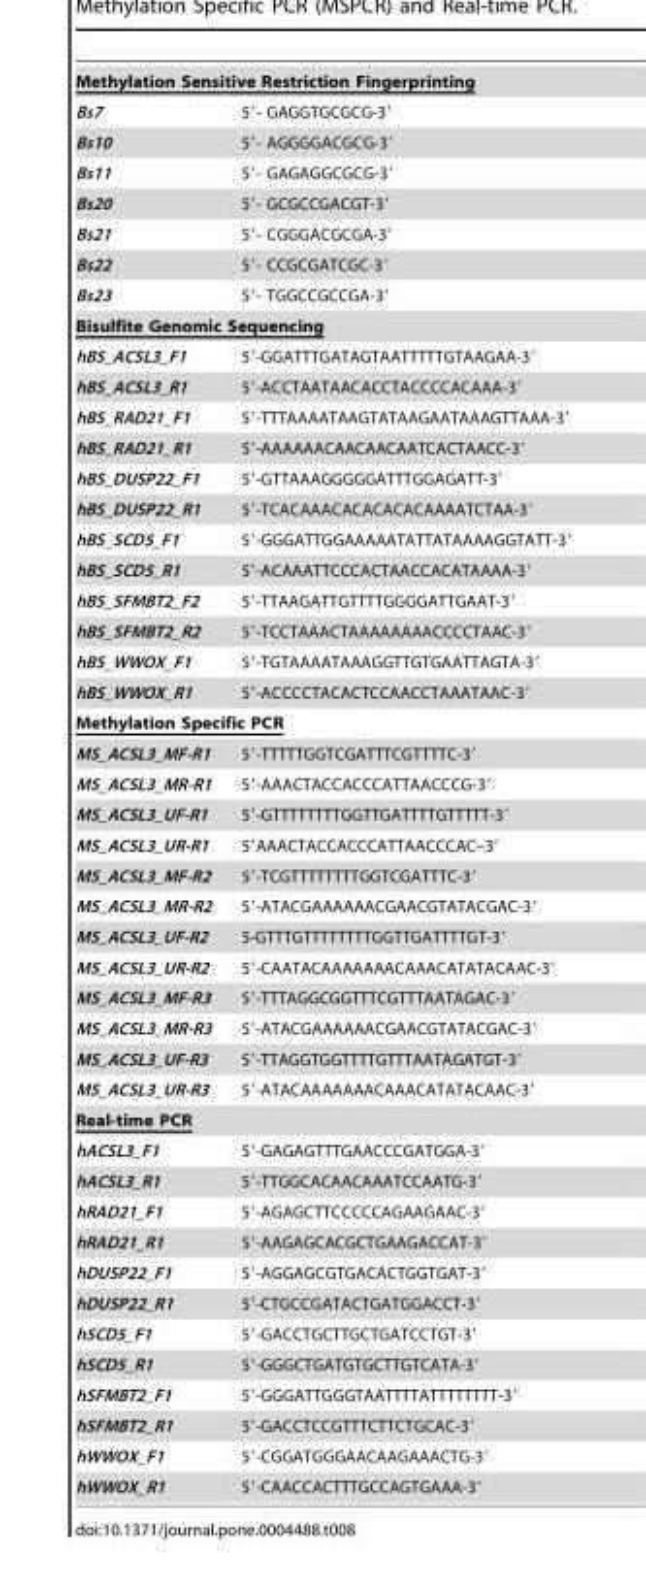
<table><tbody><tr><td colspan="2">Methylation Sensitive Restriction Fingerprinting</td></tr><tr><td>Bs7</td><td>5′- GAGGTGCGCG-3′</td></tr><tr><td>Bs10</td><td>5′- AGGGGACGCG-3′</td></tr><tr><td>Bs11</td><td>5′- GAGAGGCGCG-3′</td></tr><tr><td>Bs20</td><td>5′- GCGCCGACGT-3′</td></tr><tr><td>Bs21</td><td>5′- CGGGACGCGA-3′</td></tr><tr><td>Bs22</td><td>5′- CCGCGATCGC-3′</td></tr><tr><td>Bs23</td><td>5′- TGGCCGCCGA-3′</td></tr><tr><td colspan="2">Bisulfite Genomic Sequencing</td></tr><tr><td>hBS_ACSL3_F1</td><td>5′-GGATTTGATAGTAATTTTTGTAAGAA-3′</td></tr><tr><td>hBS_ACSL3_R1</td><td>5′-ACCTAATAACACCTACCCCACAAA-3′</td></tr><tr><td>hBS_RAD21_F1</td><td>5′-TTTAAAATAAGTATAAGAATAAAGTTAAA-3′</td></tr><tr><td>hBS_RAD21_R1</td><td>5′-AAAAAACAACAACAATCACTAACC-3′</td></tr><tr><td>hBS_DUSP22_F1</td><td>5′-GTTAAAGGGGGATTTGGAGATT-3′</td></tr><tr><td>hBS_DUSP22_R1</td><td>5′-TCACAAACACACACACAAAATCTAA-3′</td></tr><tr><td>hBS_SCD5_F1</td><td>5′-GGGATTGGAAAAATATTATAAAAGGTATT-3′</td></tr><tr><td>hBS_SCD5_R1</td><td>5′-ACAAATTCCCACTAACCACATAAAA-3′</td></tr><tr><td>hBS_SFMBT2_F2</td><td>5′-TTAAGATTGTTTTGGGGATTGAAT-3′</td></tr><tr><td>hBS_SFMBT2_R2</td><td>5′-TCCTAAACTAAAAAAAACCCCTAAC-3′</td></tr><tr><td>hBS_WWOX_F1</td><td>5′-TGTAAAATAAAGGTTGTGAATTAGTA-3′</td></tr><tr><td>hBS_WWOX_R1</td><td>5′-ACCCCTACACTCCAACCTAAATAAC-3′</td></tr><tr><td colspan="2">Methylation Specific PCR</td></tr><tr><td>MS_ACSL3_MF-R1</td><td>5′-TTTTTGGTCGATTTCGTTTTC-3′</td></tr><tr><td>MS_ACSL3_MR-R1</td><td>5′-AAACTACCACCCATTAACCCG-3′</td></tr><tr><td>MS_ACSL3_UF-R1</td><td>5′-GTTTTTTTTGGTTGATTTTGTTTTT-3′</td></tr><tr><td>MS_ACSL3_UR-R1</td><td>5′AAACTACCACCCATTAACCCAC–3′</td></tr><tr><td>MS_ACSL3_MF-R2</td><td>5′-TCGTTTTTTTTGGTCGATTTC-3′</td></tr><tr><td>MS_ACSL3_MR-R2</td><td>5′-ATACGAAAAAACGAACGTATACGAC-3′</td></tr><tr><td>MS_ACSL3_UF-R2</td><td>5-GTTTGTTTTTTTTGGTTGATTTTGT-3′</td></tr><tr><td>MS_ACSL3_UR-R2</td><td>5′-CAATACAAAAAAACAAACATATACAAC-3′</td></tr><tr><td>MS_ACSL3_MF-R3</td><td>5′-TTTAGGCGGTTTCGTTTAATAGAC-3′</td></tr><tr><td>MS_ACSL3_MR-R3</td><td>5′-ATACGAAAAAACGAACGTATACGAC-3′</td></tr><tr><td>MS_ACSL3_UF-R3</td><td>5′-TTAGGTGGTTTTGTTTAATAGATGT-3′</td></tr><tr><td>MS_ACSL3_UR-R3</td><td>5′-ATACAAAAAAACAAACATATACAAC-3′</td></tr><tr><td colspan="2">Real-time PCR</td></tr><tr><td>hACSL3_F1</td><td>5′-GAGAGTTTGAACCCGATGGA-3′</td></tr><tr><td>hACSL3_R1</td><td>5′-TTGGCACAACAAATCCAATG-3′</td></tr><tr><td>hRAD21_F1</td><td>5′-AGAGCTTCCCCCAGAAGAAC-3′</td></tr><tr><td>hRAD21_R1</td><td>5′-AAGAGCACGCTGAAGACCAT-3′</td></tr><tr><td>hDUSP22_F1</td><td>5′-AGGAGCGTGACACTGGTGAT-3′</td></tr><tr><td>hDUSP22_R1</td><td>5′-CTGCCGATACTGATGGACCT-3′</td></tr><tr><td>hSCD5_F1</td><td>5′-GACCTGCTTGCTGATCCTGT-3′</td></tr><tr><td>hSCD5_R1</td><td>5′-GGGCTGATGTGCTTGTCATA-3′</td></tr><tr><td>hSFMBT2_F1</td><td>5′-GGGATTGGGTAATTTTATTTTTTTT-3′</td></tr><tr><td>hSFMBT2_R1</td><td>5′-GACCTCCGTTTCTTCTGCAC-3′</td></tr><tr><td>hWWOX_F1</td><td>5′-CGGATGGGAACAAGAAACTG-3′</td></tr><tr><td>hWWOX_R1</td><td>5′-CAACCACTTTGCCAGTGAAA-3′</td></tr></tbody></table>